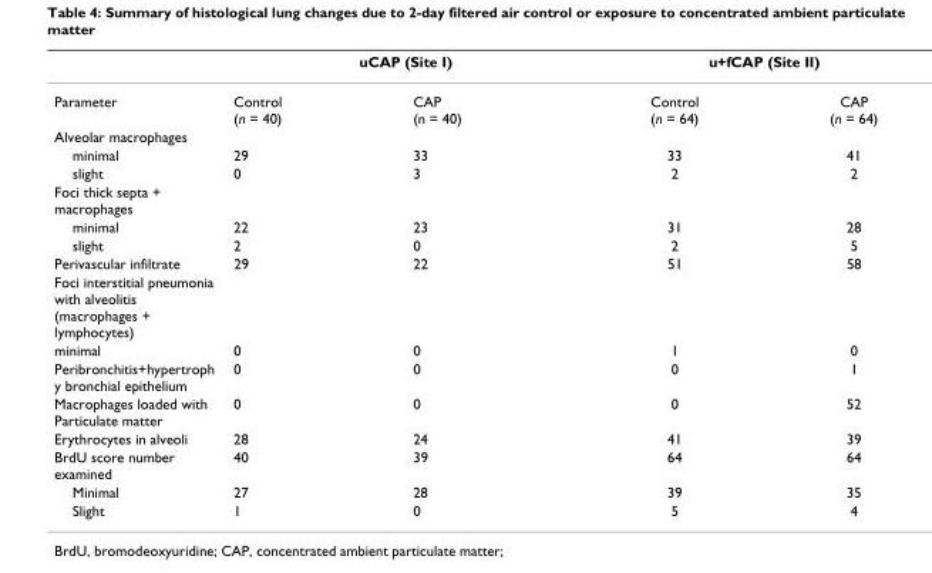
<table><thead><tr><td rowspan="2">Parameter</td><td colspan="2">uCAP (Site I)</td><td colspan="2">u+fCAP (Site II)</td></tr><tr><td>Control (n = 40)</td><td>CAP (n = 40)</td><td>Control (n = 64)</td><td>CAP (n = 64)</td></tr></thead><tbody><tr><td colspan="5">Alveolar macrophages</td></tr><tr><td>minimal</td><td>29</td><td>33</td><td>33</td><td>41</td></tr><tr><td>slight</td><td>0</td><td>3</td><td>2</td><td>2</td></tr><tr><td colspan="5">Foci thick septa + macrophages</td></tr><tr><td>minimal</td><td>22</td><td>23</td><td>31</td><td>28</td></tr><tr><td>slight</td><td>2</td><td>0</td><td>2</td><td>5</td></tr><tr><td>Perivascular infiltrate</td><td>29</td><td>22</td><td>51</td><td>58</td></tr><tr><td colspan="5">Foci interstitial pneumonia with alveolitis (macrophages + lymphocytes)</td></tr><tr><td>minimal</td><td>0</td><td>0</td><td>1</td><td>0</td></tr><tr><td>Peribronchitis+hypertroph y bronchial epithelium</td><td>0</td><td>0</td><td>0</td><td>1</td></tr><tr><td>Macrophages loaded with Particulate matter</td><td>0</td><td>0</td><td>0</td><td>52</td></tr><tr><td>Erythrocytes in alveoli</td><td>28</td><td>24</td><td>41</td><td>39</td></tr><tr><td>BrdU score number examined</td><td>40</td><td>39</td><td>64</td><td>64</td></tr><tr><td>Minimal</td><td>27</td><td>28</td><td>39</td><td>35</td></tr><tr><td>Slight</td><td>1</td><td>0</td><td>5</td><td>4</td></tr></tbody></table>